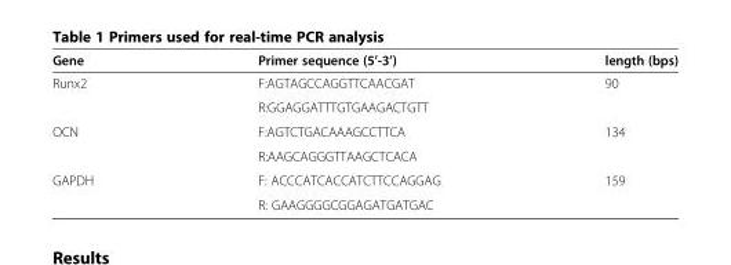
<table><thead><tr><td>Gene</td><td>Primer sequence (5’-3’)</td><td>length (bps)</td></tr></thead><tbody><tr><td rowspan="2">Runx2</td><td>F:AGTAGCCAGGTTCAACGAT</td><td>90</td></tr><tr><td>R:GGAGGATTTGTGAAGACTGTT</td><td></td></tr><tr><td rowspan="2">OCN</td><td>F:AGTCTGACAAAGCCTTCA</td><td>134</td></tr><tr><td>R:AAGCAGGGTTAAGCTCACA</td><td></td></tr><tr><td rowspan="2">GAPDH</td><td>F: ACCCATCACCATCTTCCAGGAG</td><td>159</td></tr><tr><td>R: GAAGGGGCGGAGATGATGAC</td><td></td></tr></tbody></table>